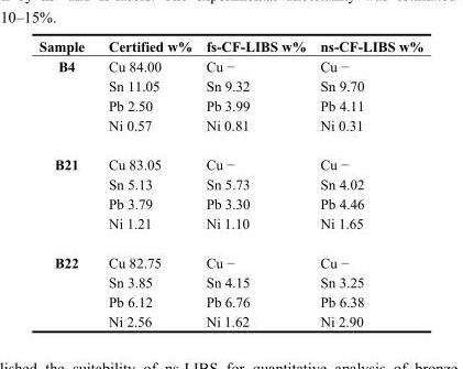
<table><thead><tr><td>Sample</td><td>Certified w%</td><td>fs-CF-LIBS w%</td><td>ns-CF-LIBS w%</td></tr></thead><tbody><tr><td rowspan="4">B4</td><td>Cu 84.00</td><td>Cu −</td><td>Cu −</td></tr><tr><td>Sn 11.05</td><td>Sn 9.32</td><td>Sn 9.70</td></tr><tr><td>Pb 2.50</td><td>Pb 3.99</td><td>Pb 4.11</td></tr><tr><td>Ni 0.57</td><td>Ni 0.81</td><td>Ni 0.31</td></tr><tr><td rowspan="4">B21</td><td>Cu 83.05</td><td>Cu −</td><td>Cu −</td></tr><tr><td>Sn 5.13</td><td>Sn 5.73</td><td>Sn 4.02</td></tr><tr><td>Pb 3.79</td><td>Pb 3.30</td><td>Pb 4.46</td></tr><tr><td>Ni 1.21</td><td>Ni 1.10</td><td>Ni 1.65</td></tr><tr><td rowspan="4">B22</td><td>Cu 82.75</td><td>Cu −</td><td>Cu −</td></tr><tr><td>Sn 3.85</td><td>Sn 4.15</td><td>Sn 3.25</td></tr><tr><td>Pb 6.12</td><td>Pb 6.76</td><td>Pb 6.38</td></tr><tr><td>Ni 2.56</td><td>Ni 1.62</td><td>Ni 2.90</td></tr></tbody></table>